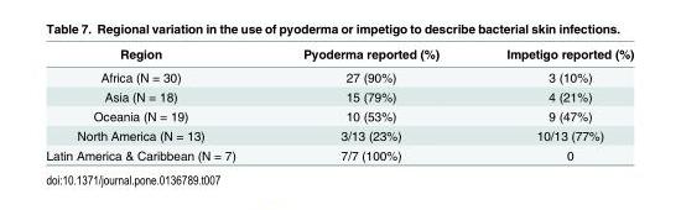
<table><thead><tr><td>Region</td><td>Pyoderma reported (%)</td><td>Impetigo reported (%)</td></tr></thead><tbody><tr><td>Africa (N = 30)</td><td>27 (90%)</td><td>3 (10%)</td></tr><tr><td>Asia (N = 18)</td><td>15 (79%)</td><td>4 (21%)</td></tr><tr><td>Oceania (N = 19)</td><td>10 (53%)</td><td>9 (47%)</td></tr><tr><td>North America (N = 13)</td><td>3/13 (23%)</td><td>10/13 (77%)</td></tr><tr><td>Latin America &amp; Caribbean (N = 7)</td><td>7/7 (100%)</td><td>0</td></tr></tbody></table>